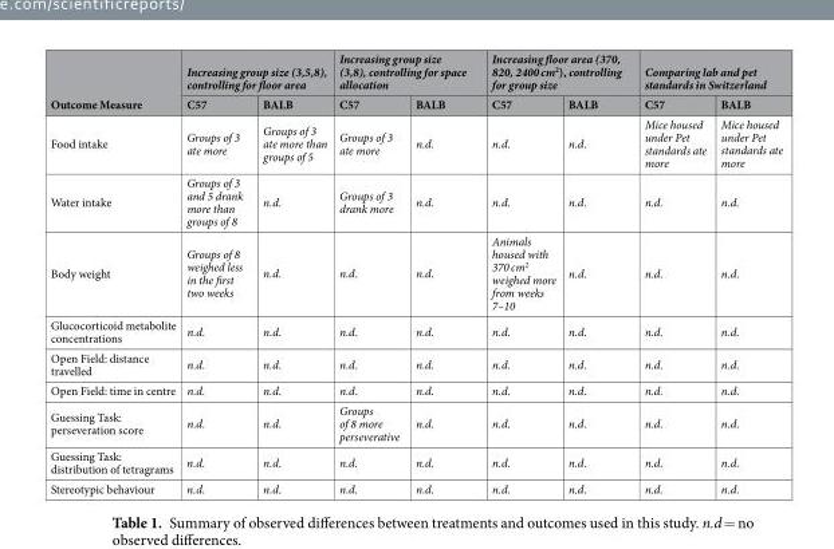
<table><thead><tr><td rowspan="2">Outcome Measure</td><td colspan="2">Increasing group size (3,5,8), controlling for floor area</td><td colspan="2">Increasing group size (3,8), controlling for space allocation</td><td colspan="2">Increasing floor area (370, 820, 2400 cm<sup>2</sup>), controlling for group size</td><td colspan="2">Comparing lab and pet standards in Switzerland</td></tr><tr><td>C57</td><td>BALB</td><td>C57</td><td>BALB</td><td>C57</td><td>BALB</td><td>C57</td><td>BALB</td></tr></thead><tbody><tr><td>Food intake</td><td>Groups of 3 ate more</td><td>Groups of 3 ate more than groups of 5</td><td>Groups of 3 ate more</td><td>n.d.</td><td>n.d.</td><td>n.d.</td><td>Mice housed under Pet standards ate more</td><td>Mice housed under Pet standards ate more</td></tr><tr><td>Water intake</td><td>Groups of 3 and 5 drank more than groups of 8</td><td>n.d.</td><td>Groups of 3 drank more</td><td>n.d.</td><td>n.d.</td><td>n.d.</td><td>n.d.</td><td>n.d.</td></tr><tr><td>Body weight</td><td>Groups of 8 weighed less in the first two weeks</td><td>n.d.</td><td>n.d.</td><td>n.d.</td><td>Animals housed with 370 cm<sup>2</sup> weighed more from weeks 7–10</td><td>n.d.</td><td>n.d.</td><td>n.d.</td></tr><tr><td>Glucocorticoid metabolite concentrations</td><td>n.d.</td><td>n.d.</td><td>n.d.</td><td>n.d.</td><td>n.d.</td><td>n.d.</td><td>n.d.</td><td>n.d.</td></tr><tr><td>Open Field: distance travelled</td><td>n.d.</td><td>n.d.</td><td>n.d.</td><td>n.d.</td><td>n.d.</td><td>n.d.</td><td>n.d.</td><td>n.d.</td></tr><tr><td>Open Field: time in centre</td><td>n.d.</td><td>n.d.</td><td>n.d.</td><td>n.d.</td><td>n.d.</td><td>n.d.</td><td>n.d.</td><td>n.d.</td></tr><tr><td>Guessing Task: perseveration score</td><td>n.d.</td><td>n.d.</td><td>Groups of 8 more perseverative</td><td>n.d.</td><td>n.d.</td><td>n.d.</td><td>n.d.</td><td>n.d.</td></tr><tr><td>Guessing Task: distribution of tetragrams</td><td>n.d.</td><td>n.d.</td><td>n.d.</td><td>n.d.</td><td>n.d.</td><td>n.d.</td><td>n.d.</td><td>n.d.</td></tr><tr><td>Stereotypic behaviour</td><td>n.d.</td><td>n.d.</td><td>n.d.</td><td>n.d.</td><td>n.d.</td><td>n.d.</td><td>n.d.</td><td>n.d.</td></tr></tbody></table>